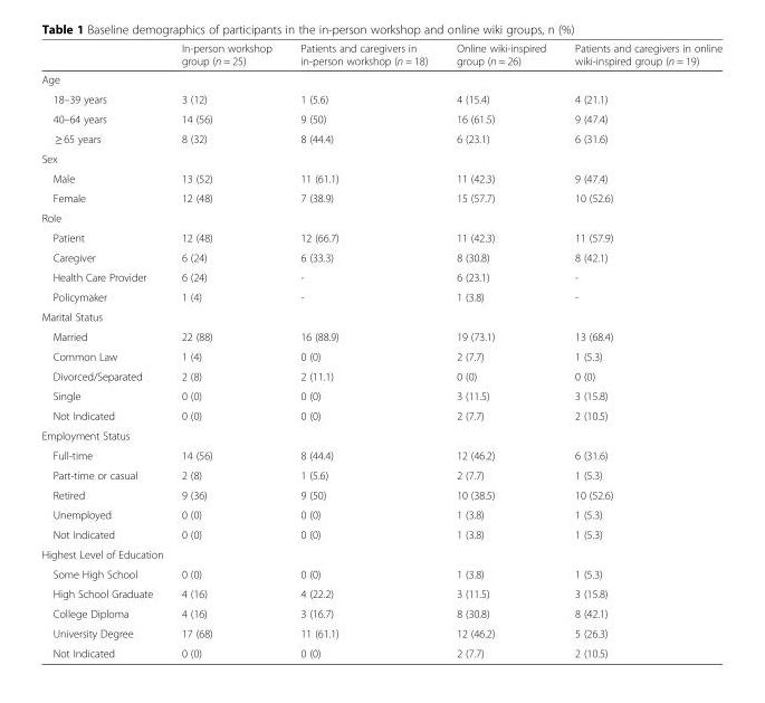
<table><thead><tr><td></td><td>In-person workshop group (n = 25)</td><td>Patients and caregivers in in-person workshop (n = 18)</td><td>Online wiki-inspired group (n = 26)</td><td>Patients and caregivers in online wiki-inspired group (n = 19)</td></tr></thead><tbody><tr><td colspan="5">Age</td></tr><tr><td>18–39 years</td><td>3 (12)</td><td>1 (5.6)</td><td>4 (15.4)</td><td>4 (21.1)</td></tr><tr><td>40–64 years</td><td>14 (56)</td><td>9 (50)</td><td>16 (61.5)</td><td>9 (47.4)</td></tr><tr><td>≥ 65 years</td><td>8 (32)</td><td>8 (44.4)</td><td>6 (23.1)</td><td>6 (31.6)</td></tr><tr><td colspan="5">Sex</td></tr><tr><td>Male</td><td>13 (52)</td><td>11 (61.1)</td><td>11 (42.3)</td><td>9 (47.4)</td></tr><tr><td>Female</td><td>12 (48)</td><td>7 (38.9)</td><td>15 (57.7)</td><td>10 (52.6)</td></tr><tr><td colspan="5">Role</td></tr><tr><td>Patient</td><td>12 (48)</td><td>12 (66.7)</td><td>11 (42.3)</td><td>11 (57.9)</td></tr><tr><td>Caregiver</td><td>6 (24)</td><td>6 (33.3)</td><td>8 (30.8)</td><td>8 (42.1)</td></tr><tr><td>Health Care Provider</td><td>6 (24)</td><td>-</td><td>6 (23.1)</td><td>-</td></tr><tr><td>Policymaker</td><td>1 (4)</td><td>-</td><td>1 (3.8)</td><td>-</td></tr><tr><td colspan="5">Marital Status</td></tr><tr><td>Married</td><td>22 (88)</td><td>16 (88.9)</td><td>19 (73.1)</td><td>13 (68.4)</td></tr><tr><td>Common Law</td><td>1 (4)</td><td>0 (0)</td><td>2 (7.7)</td><td>1 (5.3)</td></tr><tr><td>Divorced/Separated</td><td>2 (8)</td><td>2 (11.1)</td><td>0 (0)</td><td>0 (0)</td></tr><tr><td>Single</td><td>0 (0)</td><td>0 (0)</td><td>3 (11.5)</td><td>3 (15.8)</td></tr><tr><td>Not Indicated</td><td>0 (0)</td><td>0 (0)</td><td>2 (7.7)</td><td>2 (10.5)</td></tr><tr><td colspan="5">Employment Status</td></tr><tr><td>Full-time</td><td>14 (56)</td><td>8 (44.4)</td><td>12 (46.2)</td><td>6 (31.6)</td></tr><tr><td>Part-time or casual</td><td>2 (8)</td><td>1 (5.6)</td><td>2 (7.7)</td><td>1 (5.3)</td></tr><tr><td>Retired</td><td>9 (36)</td><td>9 (50)</td><td>10 (38.5)</td><td>10 (52.6)</td></tr><tr><td>Unemployed</td><td>0 (0)</td><td>0 (0)</td><td>1 (3.8)</td><td>1 (5.3)</td></tr><tr><td>Not Indicated</td><td>0 (0)</td><td>0 (0)</td><td>1 (3.8)</td><td>1 (5.3)</td></tr><tr><td colspan="5">Highest Level of Education</td></tr><tr><td>Some High School</td><td>0 (0)</td><td>0 (0)</td><td>1 (3.8)</td><td>1 (5.3)</td></tr><tr><td>High School Graduate</td><td>4 (16)</td><td>4 (22.2)</td><td>3 (11.5)</td><td>3 (15.8)</td></tr><tr><td>College Diploma</td><td>4 (16)</td><td>3 (16.7)</td><td>8 (30.8)</td><td>8 (42.1)</td></tr><tr><td>University Degree</td><td>17 (68)</td><td>11 (61.1)</td><td>12 (46.2)</td><td>5 (26.3)</td></tr><tr><td>Not Indicated</td><td>0 (0)</td><td>0 (0)</td><td>2 (7.7)</td><td>2 (10.5)</td></tr></tbody></table>